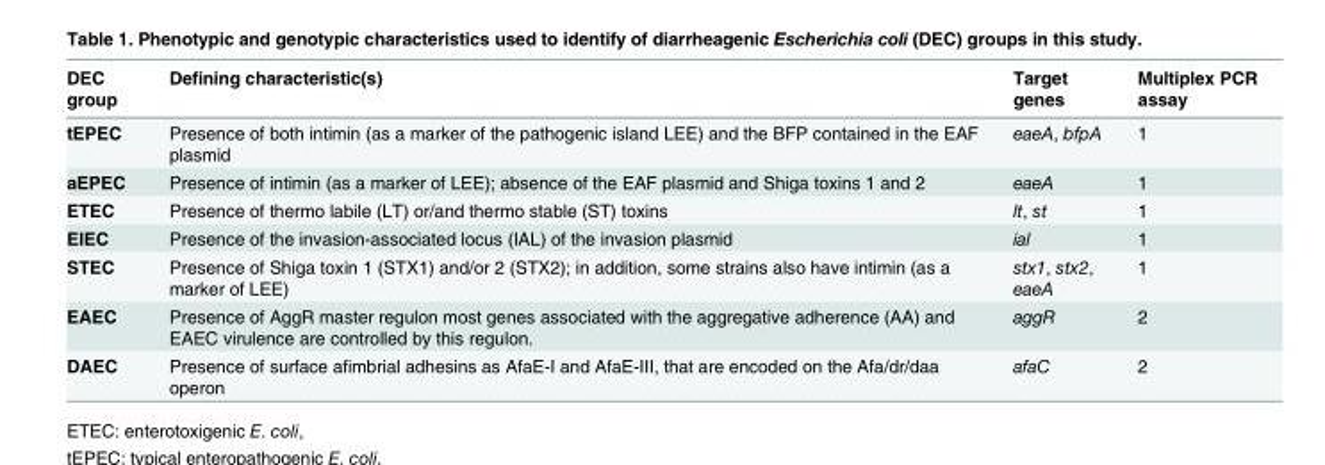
<table><thead><tr><td>DEC group</td><td>Defining characteristic(s)</td><td>Target genes</td><td>Multiplex PCR assay</td></tr></thead><tbody><tr><td>tEPEC</td><td>Presence of both intimin (as a marker of the pathogenic island LEE) and the BFP contained in the EAF plasmid</td><td>eaeA, bfpA</td><td>1</td></tr><tr><td>aEPEC</td><td>Presence of intimin (as a marker of LEE); absence of the EAF plasmid and Shiga toxins 1 and 2</td><td>eaeA</td><td>1</td></tr><tr><td>ETEC</td><td>Presence of thermo labile (LT) or/and thermo stable (ST) toxins</td><td>lt, st</td><td>1</td></tr><tr><td>EIEC</td><td>Presence of the invasion-associated locus (IAL) of the invasion plasmid</td><td>ial</td><td>1</td></tr><tr><td>STEC</td><td>Presence of Shiga toxin 1 (STX1) and/or 2 (STX2); in addition, some strains also have intimin (as a marker of LEE)</td><td>stx1, stx2, eaeA</td><td>1</td></tr><tr><td>EAEC</td><td>Presence of AggR master regulon most genes associated with the aggregative adherence (AA) and EAEC virulence are controlled by this regulon.</td><td>aggR</td><td>2</td></tr><tr><td>DAEC</td><td>Presence of surface afimbrial adhesins as AfaE-I and AfaE-III, that are encoded on the Afa/dr/daa operon</td><td>afaC</td><td>2</td></tr></tbody></table>